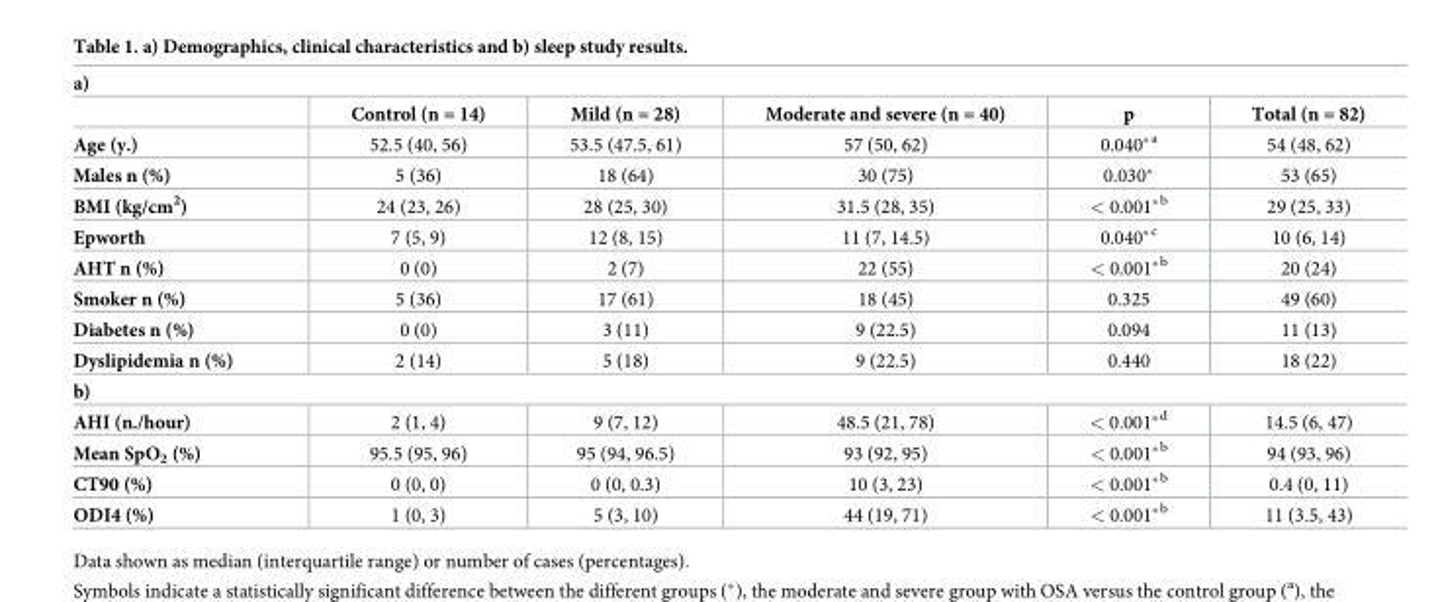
<table><tbody><tr><td colspan="6">a)</td></tr><tr><td></td><td>Control (n = 14)</td><td>Mild (n = 28)</td><td>Moderate and severe (n = 40)</td><td>p</td><td>Total (n = 82)</td></tr><tr><td>Age (y.)</td><td>52.5 (40, 56)</td><td>53.5 (47.5, 61)</td><td>57 (50, 62)</td><td>0.040*<sup>a</sup></td><td>54 (48, 62)</td></tr><tr><td>Males n (%)</td><td>5 (36)</td><td>18 (64)</td><td>30 (75)</td><td>0.030*</td><td>53 (65)</td></tr><tr><td>BMI (kg/cm<sup>2</sup>)</td><td>24 (23, 26)</td><td>28 (25, 30)</td><td>31.5 (28, 35)</td><td>&lt; 0.001*<sup>b</sup></td><td>29 (25, 33)</td></tr><tr><td>Epworth</td><td>7 (5, 9)</td><td>12 (8, 15)</td><td>11 (7, 14.5)</td><td>0.040*<sup>c</sup></td><td>10 (6, 14)</td></tr><tr><td>AHT n (%)</td><td>0 (0)</td><td>2 (7)</td><td>22 (55)</td><td>&lt; 0.001*<sup>b</sup></td><td>20 (24)</td></tr><tr><td>Smoker n (%)</td><td>5 (36)</td><td>17 (61)</td><td>18 (45)</td><td>0.325</td><td>49 (60)</td></tr><tr><td>Diabetes n (%)</td><td>0 (0)</td><td>3 (11)</td><td>9 (22.5)</td><td>0.094</td><td>11 (13)</td></tr><tr><td>Dyslipidemia n (%)</td><td>2 (14)</td><td>5 (18)</td><td>9 (22.5)</td><td>0.440</td><td>18 (22)</td></tr><tr><td colspan="6">b)</td></tr><tr><td>AHI (n./hour)</td><td>2 (1, 4)</td><td>9 (7, 12)</td><td>48.5 (21, 78)</td><td>&lt; 0.001*<sup>d</sup></td><td>14.5 (6, 47)</td></tr><tr><td>Mean SpO<sub>2</sub> (%)</td><td>95.5 (95, 96)</td><td>95 (94, 96.5)</td><td>93 (92, 95)</td><td>&lt; 0.001*<sup>b</sup></td><td>94 (93, 96)</td></tr><tr><td>CT90 (%)</td><td>0 (0, 0)</td><td>0 (0, 0.3)</td><td>10 (3, 23)</td><td>&lt; 0.001*<sup>b</sup></td><td>0.4 (0, 11)</td></tr><tr><td>ODI4 (%)</td><td>1 (0, 3)</td><td>5 (3, 10)</td><td>44 (19, 71)</td><td>&lt; 0.001*<sup>b</sup></td><td>11 (3.5, 43)</td></tr></tbody></table>